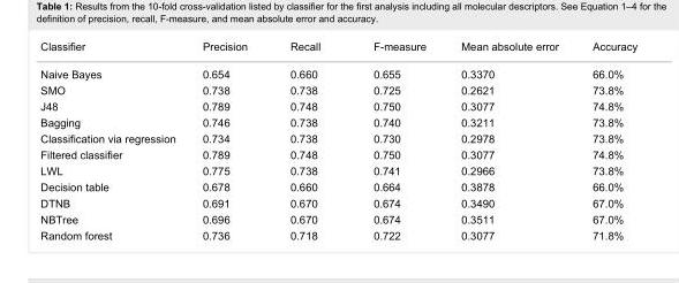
<table><tbody><tr><td>Classifier</td><td>Precision</td><td>Recall</td><td>F-measure</td><td>Mean absolute error</td><td>Accuracy</td></tr><tr><td>Naive Bayes</td><td>0.654</td><td>0.660</td><td>0.655</td><td>0.3370</td><td>66.0%</td></tr><tr><td>SMO</td><td>0.738</td><td>0.738</td><td>0.725</td><td>0.2621</td><td>73.8%</td></tr><tr><td>J48</td><td>0.789</td><td>0.748</td><td>0.750</td><td>0.3077</td><td>74.8%</td></tr><tr><td>Bagging</td><td>0.746</td><td>0.738</td><td>0.740</td><td>0.3211</td><td>73.8%</td></tr><tr><td>Classification via regression</td><td>0.734</td><td>0.738</td><td>0.730</td><td>0.2978</td><td>73.8%</td></tr><tr><td>Filtered classifier</td><td>0.789</td><td>0.748</td><td>0.750</td><td>0.3077</td><td>74.8%</td></tr><tr><td>LWL</td><td>0.775</td><td>0.738</td><td>0.741</td><td>0.2966</td><td>73.8%</td></tr><tr><td>Decision table</td><td>0.678</td><td>0.660</td><td>0.664</td><td>0.3878</td><td>66.0%</td></tr><tr><td>DTNB</td><td>0.691</td><td>0.670</td><td>0.674</td><td>0.3490</td><td>67.0%</td></tr><tr><td>NBTree</td><td>0.696</td><td>0.670</td><td>0.674</td><td>0.3511</td><td>67.0%</td></tr><tr><td>Random forest</td><td>0.736</td><td>0.718</td><td>0.722</td><td>0.3077</td><td>71.8%</td></tr></tbody></table>